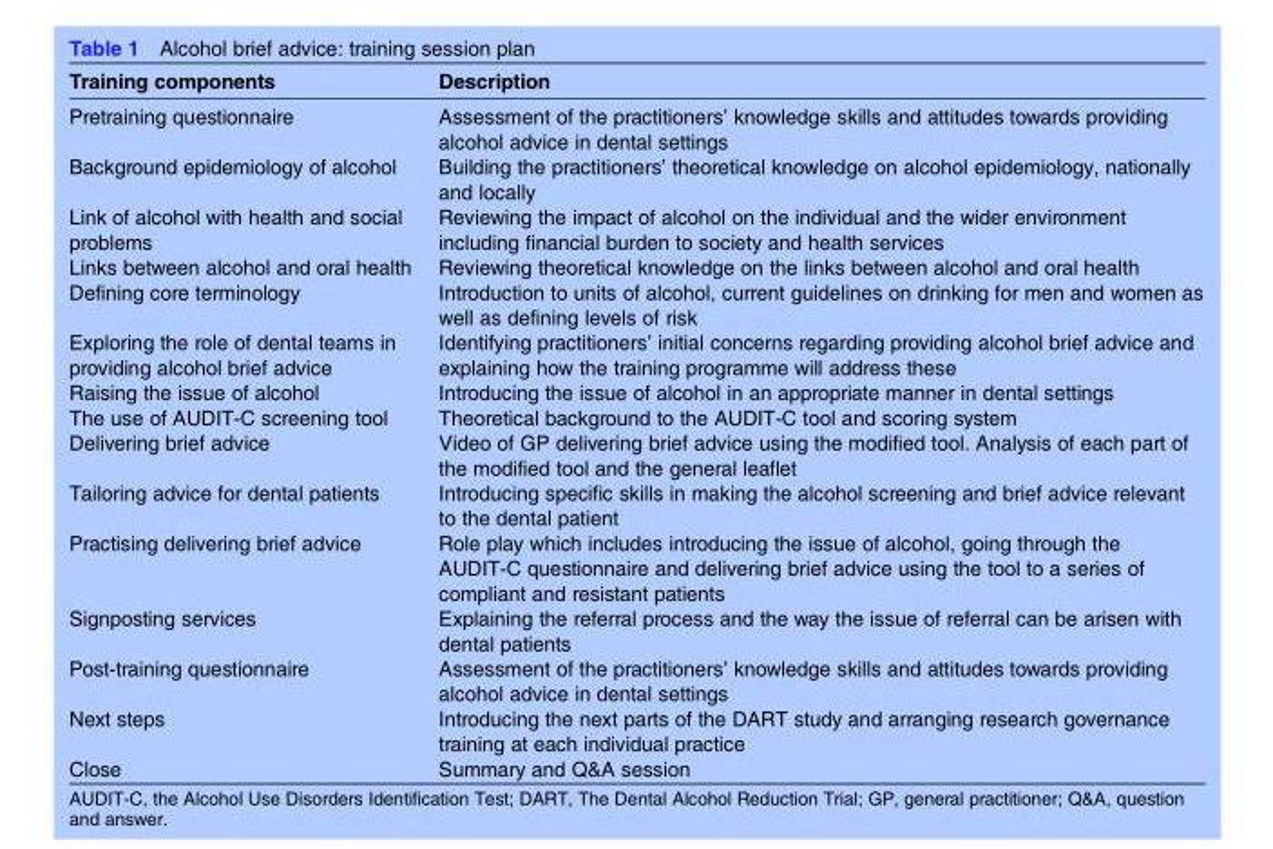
<table><thead><tr><td>Training components</td><td>Description</td></tr></thead><tbody><tr><td>Pretraining questionnaire</td><td>Assessment of the practitioners’ knowledge skills and attitudes towards providing alcohol advice in dental settings</td></tr><tr><td>Background epidemiology of alcohol</td><td>Building the practitioners’ theoretical knowledge on alcohol epidemiology, nationally and locally</td></tr><tr><td>Link of alcohol with health and social problems</td><td>Reviewing the impact of alcohol on the individual and the wider environment including financial burden to society and health services</td></tr><tr><td>Links between alcohol and oral health</td><td>Reviewing theoretical knowledge on the links between alcohol and oral health</td></tr><tr><td>Defining core terminology</td><td>Introduction to units of alcohol, current guidelines on drinking for men and women as well as defining levels of risk</td></tr><tr><td>Exploring the role of dental teams in providing alcohol brief advice</td><td>Identifying practitioners’ initial concerns regarding providing alcohol brief advice and explaining how the training programme will address these</td></tr><tr><td>Raising the issue of alcohol</td><td>Introducing the issue of alcohol in an appropriate manner in dental settings</td></tr><tr><td>The use of AUDIT-C screening tool</td><td>Theoretical background to the AUDIT-C tool and scoring system</td></tr><tr><td>Delivering brief advice</td><td>Video of GP delivering brief advice using the modified tool. Analysis of each part of the modified tool and the general leaflet</td></tr><tr><td>Tailoring advice for dental patients</td><td>Introducing specific skills in making the alcohol screening and brief advice relevant to the dental patient</td></tr><tr><td>Practising delivering brief advice</td><td>Role play which includes introducing the issue of alcohol, going through the AUDIT-C questionnaire and delivering brief advice using the tool to a series of compliant and resistant patients</td></tr><tr><td>Signposting services</td><td>Explaining the referral process and the way the issue of referral can be arisen with dental patients</td></tr><tr><td>Post-training questionnaire</td><td>Assessment of the practitioners’ knowledge skills and attitudes towards providing alcohol advice in dental settings</td></tr><tr><td>Next steps</td><td>Introducing the next parts of the DART study and arranging research governance training at each individual practice</td></tr><tr><td>Close</td><td>Summary and Q&amp;A session</td></tr></tbody></table>